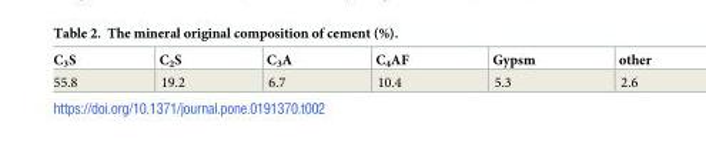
<table><thead><tr><td>C<sub>3</sub>S</td><td>C<sub>2</sub>S</td><td>C<sub>3</sub>A</td><td>C<sub>4</sub>AF</td><td>Gypsm</td><td>other</td></tr></thead><tbody><tr><td>55.8</td><td>19.2</td><td>6.7</td><td>10.4</td><td>5.3</td><td>2.6</td></tr></tbody></table>